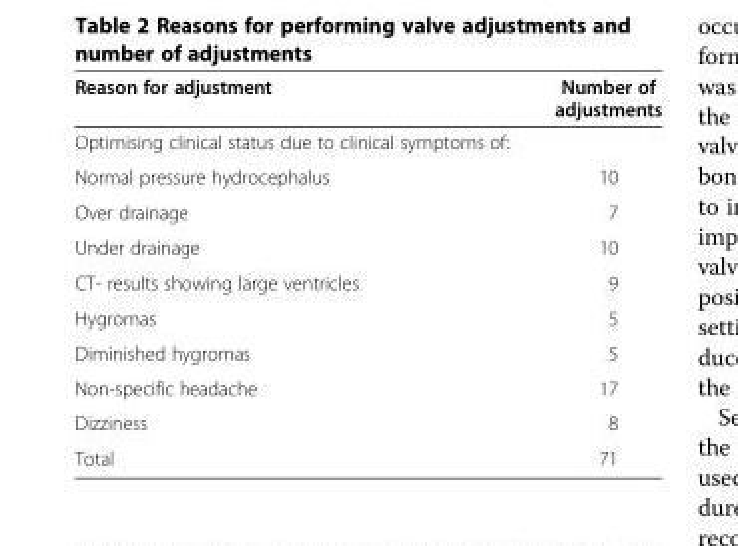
<table><thead><tr><td>Reason for adjustment</td><td>Number of adjustments</td></tr></thead><tbody><tr><td colspan="2">Optimising clinical status due to clinical symptoms of:</td></tr><tr><td>Normal pressure hydrocephalus</td><td>10</td></tr><tr><td>Over drainage</td><td>7</td></tr><tr><td>Under drainage</td><td>10</td></tr><tr><td>CT- results showing large ventricles</td><td>9</td></tr><tr><td>Hygromas</td><td>5</td></tr><tr><td>Diminished hygromas</td><td>5</td></tr><tr><td>Non-specific headache</td><td>17</td></tr><tr><td>Dizziness</td><td>8</td></tr><tr><td>Total</td><td>71</td></tr></tbody></table>